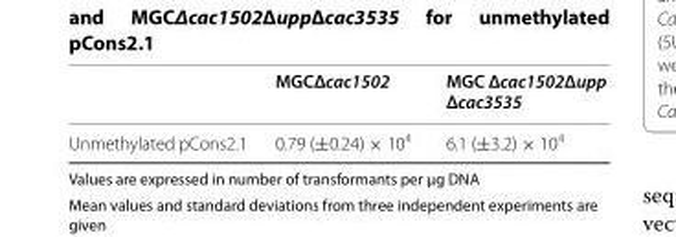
<table><thead><tr><td></td><td>MGCΔcac1502</td><td>MGC Δcac1502Δupp Δcac3535</td></tr></thead><tbody><tr><td>Unmethylated pCons2.1</td><td>0.79 (±0.24) × 10<sup>4</sup></td><td>6.1 (±3.2) × 10<sup>4</sup></td></tr></tbody></table>